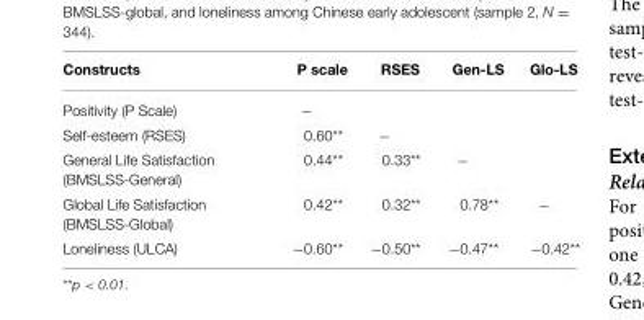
<table><thead><tr><td>Constructs</td><td>P scale</td><td>RSES</td><td>Gen-LS</td><td>Glo-LS</td></tr></thead><tbody><tr><td>Positivity (P Scale)</td><td>−</td><td></td><td></td><td></td></tr><tr><td>Self-esteem (RSES)</td><td>0.60**</td><td>−</td><td></td><td></td></tr><tr><td>General Life Satisfaction (BMSLSS-General)</td><td>0.44**</td><td>0.33**</td><td>−</td><td></td></tr><tr><td>Global Life Satisfaction (BMSLSS-Global)</td><td>0.42**</td><td>0.32**</td><td>0.78**</td><td>−</td></tr><tr><td>Loneliness (ULCA)</td><td>−0.60**</td><td>−0.50**</td><td>−0.47**</td><td>−0.42**</td></tr></tbody></table>